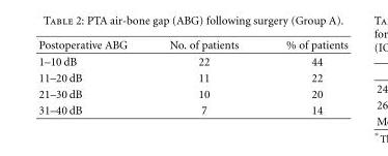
<table><thead><tr><td>Postoperative ABG</td><td>No. of patients</td><td>% of patients</td></tr></thead><tbody><tr><td>1–10 dB</td><td>22</td><td>44</td></tr><tr><td>11–20 dB</td><td>11</td><td>22</td></tr><tr><td>21–30 dB</td><td>10</td><td>20</td></tr><tr><td>31–40 dB</td><td>7</td><td>14</td></tr></tbody></table>